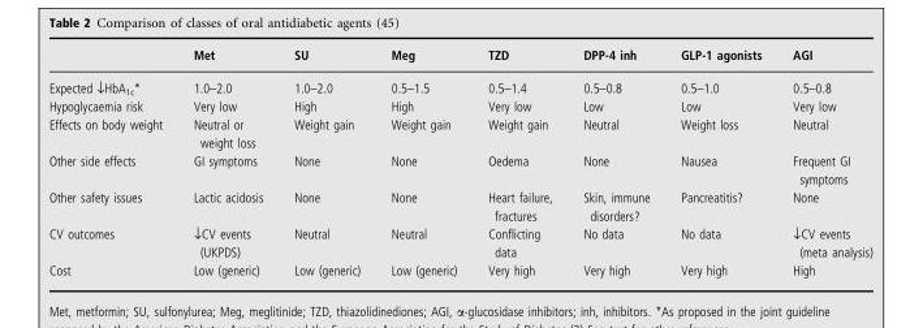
<table><thead><tr><td></td><td>Met</td><td>SU</td><td>Meg</td><td>TZD</td><td>DPP-4 inh</td><td>GLP-1 agonists</td><td>AGI</td></tr></thead><tbody><tr><td>Expected flHbA1c*</td><td>1.0–2.0</td><td>1.0–2.0</td><td>0.5–1.5</td><td>0.5–1.4</td><td>0.5–0.8</td><td>0.5–1.0</td><td>0.5–0.8</td></tr><tr><td>Hypoglycaemia risk</td><td>Very low</td><td>High</td><td>High</td><td>Very low</td><td>Low</td><td>Low</td><td>Very low</td></tr><tr><td>Effects on body weight</td><td>Neutral or weight loss</td><td>Weight gain</td><td>Weight gain</td><td>Weight gain</td><td>Neutral</td><td>Weight loss</td><td>Neutral</td></tr><tr><td>Other side effects</td><td>GI symptoms</td><td>None</td><td>None</td><td>Oedema</td><td>None</td><td>Nausea</td><td>Frequent GI symptoms</td></tr><tr><td>Other safety issues</td><td>Lactic acidosis</td><td>None</td><td>None</td><td>Heart failure, fractures</td><td>Skin, immune disorders?</td><td>Pancreatitis?</td><td>None</td></tr><tr><td>CV outcomes</td><td>flCV events (UKPDS)</td><td>Neutral</td><td>Neutral</td><td>Conflicting data</td><td>No data</td><td>No data</td><td>flCV events (meta analysis)</td></tr><tr><td>Cost</td><td>Low (generic)</td><td>Low (generic)</td><td>Low (generic)</td><td>Very high</td><td>Very high</td><td>Very high</td><td>High</td></tr></tbody></table>